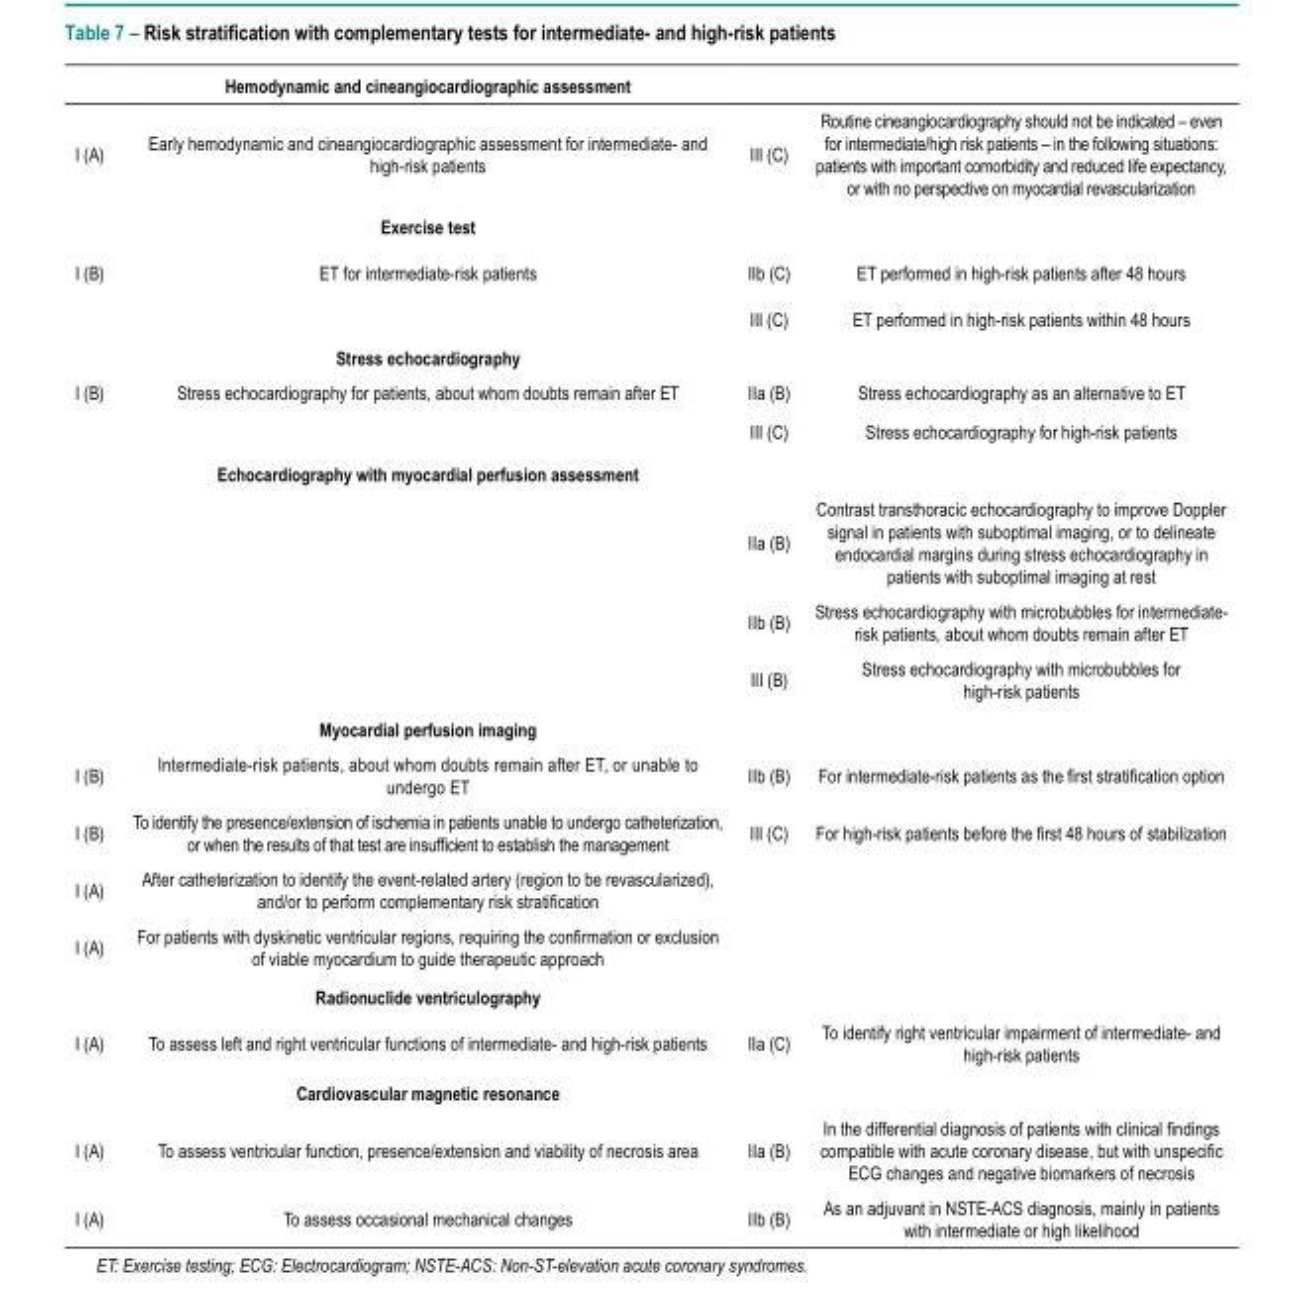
<table><thead><tr><td></td><td>Hemodynamic and cineangiocardiographic assessment</td><td></td><td></td></tr></thead><tbody><tr><td rowspan="2">I (A)</td><td>Early hemodynamic and cineangiocardiographic assessment for intermediate- and high-risk patients</td><td>III (C)</td><td>Routine cineangiocardiography should not be indicated – even for intermediate/high risk patients – in the following situations: patients with important comorbidity and reduced life expectancy, or with no perspective on myocardial revascularization</td></tr><tr><td>Exercise test</td><td></td><td></td></tr><tr><td rowspan="3">I (B)</td><td>ET for intermediate-risk patients</td><td>IIb (C)</td><td>ET performed in high-risk patients after 48 hours</td></tr><tr><td></td><td>III (C)</td><td>ET performed in high-risk patients within 48 hours</td></tr><tr><td>Stress echocardiography</td><td></td><td></td></tr><tr><td rowspan="7">I (B)</td><td>Stress echocardiography for patients, about whom doubts remain after ET</td><td>IIa (B)</td><td>Stress echocardiography as an alternative to ET</td></tr><tr><td></td><td>III (C)</td><td>Stress echocardiography for high-risk patients</td></tr><tr><td>Echocardiography with myocardial perfusion assessment</td><td></td><td></td></tr><tr><td></td><td>IIa (B)</td><td>Contrast transthoracic echocardiography to improve Doppler signal in patients with suboptimal imaging, or to delineate endocardial margins during stress echocardiography in patients with suboptimal imaging at rest</td></tr><tr><td></td><td>IIb (B)</td><td>Stress echocardiography with microbubbles for intermediate- risk patients, about whom doubts remain after ET</td></tr><tr><td></td><td>III (B)</td><td>Stress echocardiography with microbubbles for high-risk patients</td></tr><tr><td>Myocardial perfusion imaging</td><td></td><td></td></tr><tr><td>I (B)</td><td>Intermediate-risk patients, about whom doubts remain after ET, or unable to undergo ET</td><td>IIb (B)</td><td>For intermediate-risk patients as the first stratification option</td></tr><tr><td>I (B)</td><td>To identify the presence/extension of ischemia in patients unable to undergo catheterization, or when the results of that test are insufficient to establish the management</td><td>III (C)</td><td>For high-risk patients before the first 48 hours of stabilization</td></tr><tr><td>I (A)</td><td>After catheterization to identify the event-related artery (region to be revascularized), and/or to perform complementary risk stratification</td><td></td><td></td></tr><tr><td rowspan="2">I (A)</td><td>For patients with dyskinetic ventricular regions, requiring the confirmation or exclusion of viable myocardium to guide therapeutic approach</td><td></td><td></td></tr><tr><td>Radionuclide ventriculography</td><td></td><td></td></tr><tr><td rowspan="2">I (A)</td><td>To assess left and right ventricular functions of intermediate- and high-risk patients</td><td>IIa (C)</td><td>To identify right ventricular impairment of intermediate- and high-risk patients</td></tr><tr><td>Cardiovascular magnetic resonance</td><td></td><td></td></tr><tr><td>I (A)</td><td>To assess ventricular function, presence/extension and viability of necrosis area</td><td>IIa (B)</td><td>In the differential diagnosis of patients with clinical findings compatible with acute coronary disease, but with unspecific ECG changes and negative biomarkers of necrosis</td></tr><tr><td>I (A)</td><td>To assess occasional mechanical changes</td><td>IIb (B)</td><td>As an adjuvant in NSTE-ACS diagnosis, mainly in patients with intermediate or high likelihood</td></tr></tbody></table>